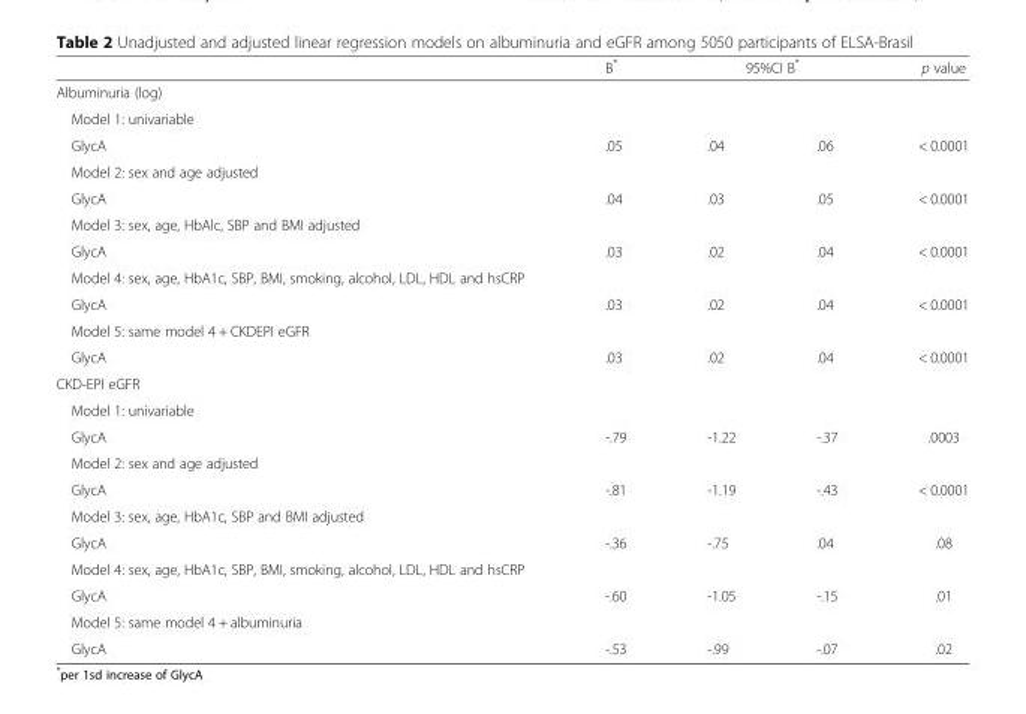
<table><thead><tr><td rowspan="2">Albuminuria (log)</td><td rowspan="2">B*</td><td colspan="2">95%CI B*</td><td rowspan="2">p value</td></tr><tr><td></td><td></td></tr></thead><tbody><tr><td colspan="5">Model 1: univariable</td></tr><tr><td>GlycA</td><td>.05</td><td>.04</td><td>.06</td><td>&lt; 0.0001</td></tr><tr><td colspan="5">Model 2: sex and age adjusted</td></tr><tr><td>GlycA</td><td>.04</td><td>.03</td><td>.05</td><td>&lt; 0.0001</td></tr><tr><td colspan="5">Model 3: sex, age, HbAlc, SBP and BMI adjusted</td></tr><tr><td>GlycA</td><td>.03</td><td>.02</td><td>.04</td><td>&lt; 0.0001</td></tr><tr><td colspan="5">Model 4: sex, age, HbA1c, SBP, BMI, smoking, alcohol, LDL, HDL and hsCRP</td></tr><tr><td>GlycA</td><td>.03</td><td>.02</td><td>.04</td><td>&lt; 0.0001</td></tr><tr><td colspan="5">Model 5: same model 4 + CKDEPI eGFR</td></tr><tr><td>GlycA</td><td>.03</td><td>.02</td><td>.04</td><td>&lt; 0.0001</td></tr><tr><td colspan="5">CKD-EPI eGFR</td></tr><tr><td colspan="5">Model 1: univariable</td></tr><tr><td>GlycA</td><td>-.79</td><td>-1.22</td><td>-.37</td><td>.0003</td></tr><tr><td colspan="5">Model 2: sex and age adjusted</td></tr><tr><td>GlycA</td><td>-.81</td><td>-1.19</td><td>-.43</td><td>&lt; 0.0001</td></tr><tr><td colspan="5">Model 3: sex, age, HbA1c, SBP and BMI adjusted</td></tr><tr><td>GlycA</td><td>-.36</td><td>-.75</td><td>.04</td><td>.08</td></tr><tr><td colspan="5">Model 4: sex, age, HbA1c, SBP, BMI, smoking, alcohol, LDL, HDL and hsCRP</td></tr><tr><td>GlycA</td><td>-.60</td><td>-1.05</td><td>-.15</td><td>.01</td></tr><tr><td colspan="5">Model 5: same model 4 + albuminuria</td></tr><tr><td>GlycA</td><td>-.53</td><td>-.99</td><td>-.07</td><td>.02</td></tr></tbody></table>